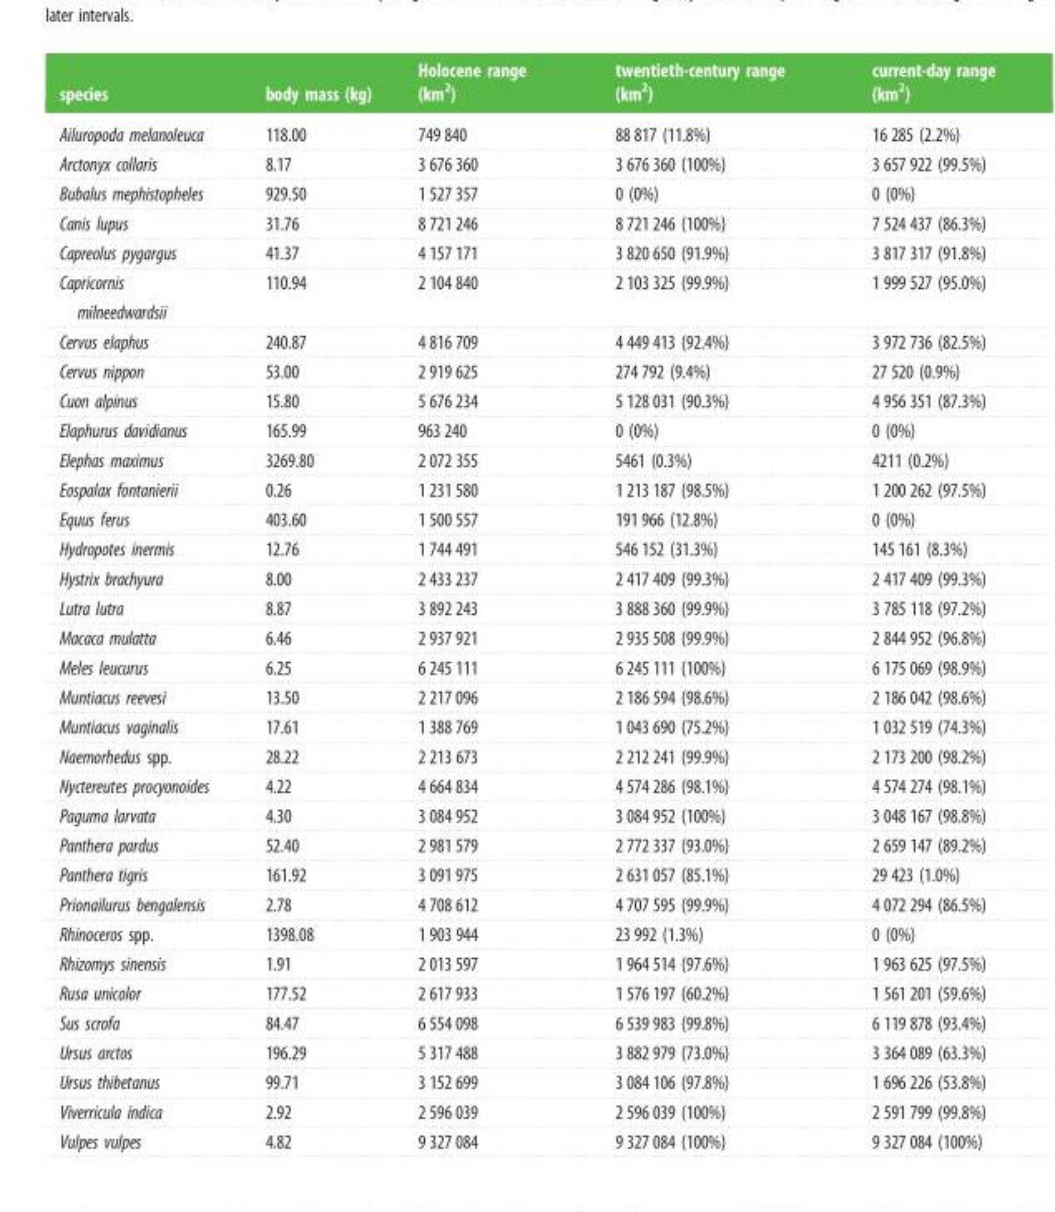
<table><thead><tr><td>species</td><td>body mass (kg)</td><td>Holocene range (km<sup>2</sup>)</td><td>twentieth-century range (km<sup>2</sup>)</td><td>current-day range (km<sup>2</sup>)</td></tr></thead><tbody><tr><td>Ailuropoda melanoleuca</td><td>118.00</td><td>749 840</td><td>88 817 (11.8%)</td><td>16 285 (2.2%)</td></tr><tr><td>Arctonyx collaris</td><td>8.17</td><td>3 676 360</td><td>3 676 360 (100%)</td><td>3 657 922 (99.5%)</td></tr><tr><td>Bubalus mephistopheles</td><td>929.50</td><td>1 527 357</td><td>0 (0%)</td><td>0 (0%)</td></tr><tr><td>Canis lupus</td><td>31.76</td><td>8 721 246</td><td>8 721 246 (100%)</td><td>7 524 437 (86.3%)</td></tr><tr><td>Capreolus pygargus</td><td>41.37</td><td>4 157 171</td><td>3 820 650 (91.9%)</td><td>3 817 317 (91.8%)</td></tr><tr><td>Capricornis milneedwardsii</td><td>110.94</td><td>2 104 840</td><td>2 103 325 (99.9%)</td><td>1 999 527 (95.0%)</td></tr><tr><td>Cervus elaphus</td><td>240.87</td><td>4 816 709</td><td>4 449 413 (92.4%)</td><td>3 972 736 (82.5%)</td></tr><tr><td>Cervus nippon</td><td>53.00</td><td>2 919 625</td><td>274 792 (9.4%)</td><td>27 520 (0.9%)</td></tr><tr><td>Cuon alpinus</td><td>15.80</td><td>5 676 234</td><td>5 128 031 (90.3%)</td><td>4 956 351 (87.3%)</td></tr><tr><td>Elaphurus davidianus</td><td>165.99</td><td>963 240</td><td>0 (0%)</td><td>0 (0%)</td></tr><tr><td>Elephas maximus</td><td>3269.80</td><td>2 072 355</td><td>5461 (0.3%)</td><td>4211 (0.2%)</td></tr><tr><td>Eospalax fontanierii</td><td>0.26</td><td>1 231 580</td><td>1 213 187 (98.5%)</td><td>1 200 262 (97.5%)</td></tr><tr><td>Equus ferus</td><td>403.60</td><td>1 500 557</td><td>191 966 (12.8%)</td><td>0 (0%)</td></tr><tr><td>Hydropotes inermis</td><td>12.76</td><td>1 744 491</td><td>546 152 (31.3%)</td><td>145 161 (8.3%)</td></tr><tr><td>Hystrix brachyura</td><td>8.00</td><td>2 433 237</td><td>2 417 409 (99.3%)</td><td>2 417 409 (99.3%)</td></tr><tr><td>Lutra lutra</td><td>8.87</td><td>3 892 243</td><td>3 888 360 (99.9%)</td><td>3 785 118 (97.2%)</td></tr><tr><td>Macaca mulatta</td><td>6.46</td><td>2 937 921</td><td>2 935 508 (99.9%)</td><td>2 844 952 (96.8%)</td></tr><tr><td>Meles leucurus</td><td>6.25</td><td>6 245 111</td><td>6 245 111 (100%)</td><td>6 175 069 (98.9%)</td></tr><tr><td>Muntiacus reevesi</td><td>13.50</td><td>2 217 096</td><td>2 186 594 (98.6%)</td><td>2 186 042 (98.6%)</td></tr><tr><td>Muntiacus vaginalis</td><td>17.61</td><td>1 388 769</td><td>1 043 690 (75.2%)</td><td>1 032 519 (74.3%)</td></tr><tr><td>Naemorhedus spp.</td><td>28.22</td><td>2 213 673</td><td>2 212 241 (99.9%)</td><td>2 173 200 (98.2%)</td></tr><tr><td>Nyctereutes procyonoides</td><td>4.22</td><td>4 664 834</td><td>4 574 286 (98.1%)</td><td>4 574 274 (98.1%)</td></tr><tr><td>Paguma larvata</td><td>4.30</td><td>3 084 952</td><td>3 084 952 (100%)</td><td>3 048 167 (98.8%)</td></tr><tr><td>Panthera pardus</td><td>52.40</td><td>2 981 579</td><td>2 772 337 (93.0%)</td><td>2 659 147 (89.2%)</td></tr><tr><td>Panthera tigris</td><td>161.92</td><td>3 091 975</td><td>2 631 057 (85.1%)</td><td>29 423 (1.0%)</td></tr><tr><td>Prionailurus bengalensis</td><td>2.78</td><td>4 708 612</td><td>4 707 595 (99.9%)</td><td>4 072 294 (86.5%)</td></tr><tr><td>Rhinoceros spp.</td><td>1398.08</td><td>1 903 944</td><td>23 992 (1.3%)</td><td>0 (0%)</td></tr><tr><td>Rhizomys sinensis</td><td>1.91</td><td>2 013 597</td><td>1 964 514 (97.6%)</td><td>1 963 625 (97.5%)</td></tr><tr><td>Rusa unicolor</td><td>177.52</td><td>2 617 933</td><td>1 576 197 (60.2%)</td><td>1 561 201 (59.6%)</td></tr><tr><td>Sus scrofa</td><td>84.47</td><td>6 554 098</td><td>6 539 983 (99.8%)</td><td>6 119 878 (93.4%)</td></tr><tr><td>Ursus arctos</td><td>196.29</td><td>5 317 488</td><td>3 882 979 (73.0%)</td><td>3 364 089 (63.3%)</td></tr><tr><td>Ursus thibetanus</td><td>99.71</td><td>3 152 699</td><td>3 084 106 (97.8%)</td><td>1 696 226 (53.8%)</td></tr><tr><td>Viverricula indica</td><td>2.92</td><td>2 596 039</td><td>2 596 039 (100%)</td><td>2 591 799 (99.8%)</td></tr><tr><td>Vulpes vulpes</td><td>4.82</td><td>9 327 084</td><td>9 327 084 (100%)</td><td>9 327 084 (100%)</td></tr></tbody></table>